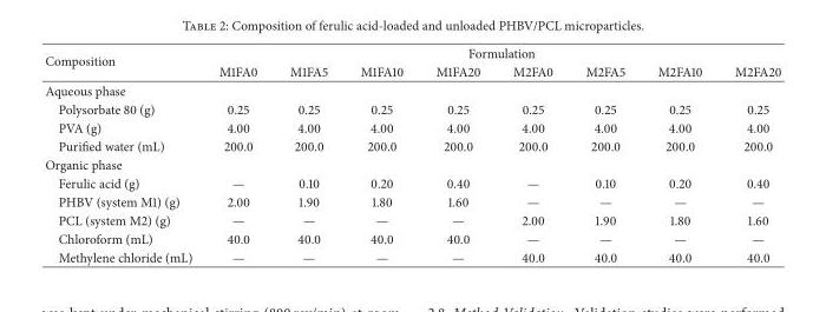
<table><thead><tr><td rowspan="2">Composition</td><td colspan="8">Formulation</td></tr><tr><td>M1FA0</td><td>M1FA5</td><td>M1FA10</td><td>M1FA20</td><td>M2FA0</td><td>M2FA5</td><td>M2FA10</td><td>M2FA20</td></tr></thead><tbody><tr><td colspan="9">Aqueous phase</td></tr><tr><td>Polysorbate 80 (g)</td><td>0.25</td><td>0.25</td><td>0.25</td><td>0.25</td><td>0.25</td><td>0.25</td><td>0.25</td><td>0.25</td></tr><tr><td>PVA (g)</td><td>4.00</td><td>4.00</td><td>4.00</td><td>4.00</td><td>4.00</td><td>4.00</td><td>4.00</td><td>4.00</td></tr><tr><td>Purified water (mL)</td><td>200.0</td><td>200.0</td><td>200.0</td><td>200.0</td><td>200.0</td><td>200.0</td><td>200.0</td><td>200.0</td></tr><tr><td colspan="9">Organic phase</td></tr><tr><td>Ferulic acid (g)</td><td>—</td><td>0.10</td><td>0.20</td><td>0.40</td><td>—</td><td>0.10</td><td>0.20</td><td>0.40</td></tr><tr><td>PHBV (system M1) (g)</td><td>2.00</td><td>1.90</td><td>1.80</td><td>1.60</td><td>—</td><td>—</td><td>—</td><td>—</td></tr><tr><td>PCL (system M2) (g)</td><td>—</td><td>—</td><td>—</td><td>—</td><td>2.00</td><td>1.90</td><td>1.80</td><td>1.60</td></tr><tr><td>Chloroform (mL)</td><td>40.0</td><td>40.0</td><td>40.0</td><td>40.0</td><td>—</td><td>—</td><td>—</td><td>—</td></tr><tr><td>Methylene chloride (mL)</td><td>—</td><td>—</td><td>—</td><td>—</td><td>40.0</td><td>40.0</td><td>40.0</td><td>40.0</td></tr></tbody></table>